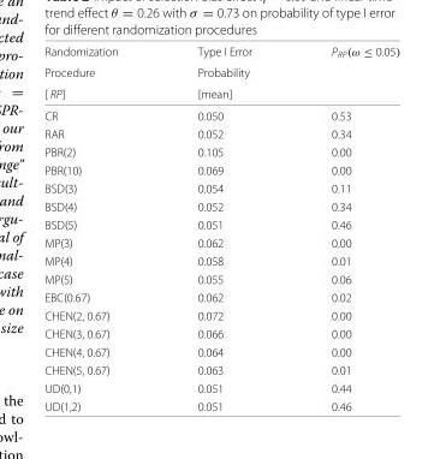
<table><thead><tr><td rowspan="3">Randomization Procedure [ RP]</td><td rowspan="3">Type I Error Probability [mean]</td><td rowspan="3">P<sub>RP</sub>(ω ≤ 0.05)</td></tr><tr></tr><tr></tr></thead><tbody><tr><td>CR</td><td>0.050</td><td>0.53</td></tr><tr><td>RAR</td><td>0.052</td><td>0.34</td></tr><tr><td>PBR(2)</td><td>0.105</td><td>0.00</td></tr><tr><td>PBR(10)</td><td>0.069</td><td>0.00</td></tr><tr><td>BSD(3)</td><td>0.054</td><td>0.11</td></tr><tr><td>BSD(4)</td><td>0.052</td><td>0.34</td></tr><tr><td>BSD(5)</td><td>0.051</td><td>0.46</td></tr><tr><td>MP(3)</td><td>0.062</td><td>0.00</td></tr><tr><td>MP(4)</td><td>0.058</td><td>0.01</td></tr><tr><td>MP(5)</td><td>0.055</td><td>0.06</td></tr><tr><td>EBC(0.67)</td><td>0.062</td><td>0.02</td></tr><tr><td>CHEN(2, 0.67)</td><td>0.072</td><td>0.00</td></tr><tr><td>CHEN(3, 0.67)</td><td>0.066</td><td>0.00</td></tr><tr><td>CHEN(4, 0.67)</td><td>0.064</td><td>0.00</td></tr><tr><td>CHEN(5, 0.67)</td><td>0.063</td><td>0.01</td></tr><tr><td>UD(0,1)</td><td>0.051</td><td>0.44</td></tr><tr><td>UD(1,2)</td><td>0.051</td><td>0.46</td></tr></tbody></table>